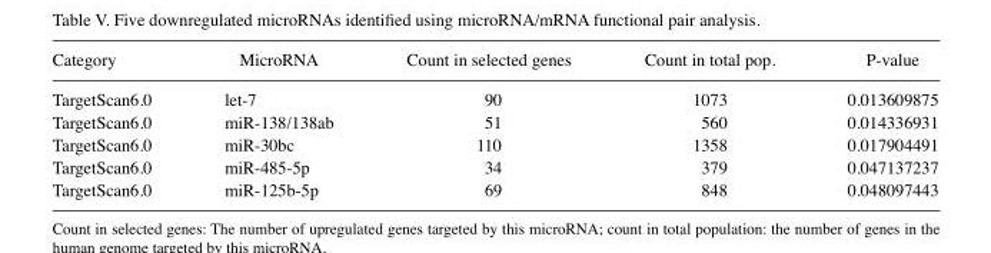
<table><thead><tr><td>Category</td><td>MicroRNA</td><td>Count in selected genes</td><td>Count in total pop.</td><td>P-value</td></tr></thead><tbody><tr><td>TargetScan6.0</td><td>let-7</td><td>90</td><td>1073</td><td>0.013609875</td></tr><tr><td>TargetScan6.0</td><td>miR-138/138ab</td><td>51</td><td>560</td><td>0.014336931</td></tr><tr><td>TargetScan6.0</td><td>miR-30bc</td><td>110</td><td>1358</td><td>0.017904491</td></tr><tr><td>TargetScan6.0</td><td>miR-485-5p</td><td>34</td><td>379</td><td>0.047137237</td></tr><tr><td>TargetScan6.0</td><td>miR-125b-5p</td><td>69</td><td>848</td><td>0.048097443</td></tr></tbody></table>